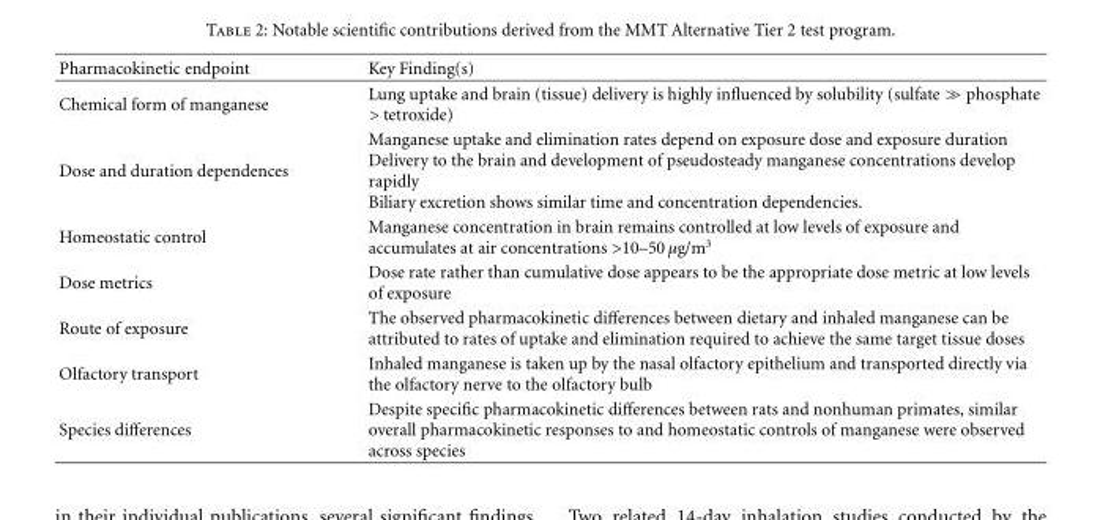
<table><thead><tr><td>Pharmacokinetic endpoint</td><td>Key Finding(s)</td></tr></thead><tbody><tr><td>Chemical form of manganese</td><td>Lung uptake and brain (tissue) delivery is highly influenced by solubility (sulfate ≫ phosphate &gt; tetroxide)</td></tr><tr><td>Dose and duration dependences</td><td>Manganese uptake and elimination rates depend on exposure dose and exposure duration Delivery to the brain and development of pseudosteady manganese concentrations develop rapidly Biliary excretion shows similar time and concentration dependencies.</td></tr><tr><td>Homeostatic control</td><td>Manganese concentration in brain remains controlled at low levels of exposure and accumulates at air concentrations &gt;10–50 µg/m<sup>3</sup></td></tr><tr><td>Dose metrics</td><td>Dose rate rather than cumulative dose appears to be the appropriate dose metric at low levels of exposure</td></tr><tr><td>Route of exposure</td><td>The observed pharmacokinetic differences between dietary and inhaled manganese can be attributed to rates of uptake and elimination required to achieve the same target tissue doses</td></tr><tr><td>Olfactory transport</td><td>Inhaled manganese is taken up by the nasal olfactory epithelium and transported directly via the olfactory nerve to the olfactory bulb</td></tr><tr><td>Species differences</td><td>Despite specific pharmacokinetic differences between rats and nonhuman primates, similar overall pharmacokinetic responses to and homeostatic controls of manganese were observed across species</td></tr></tbody></table>